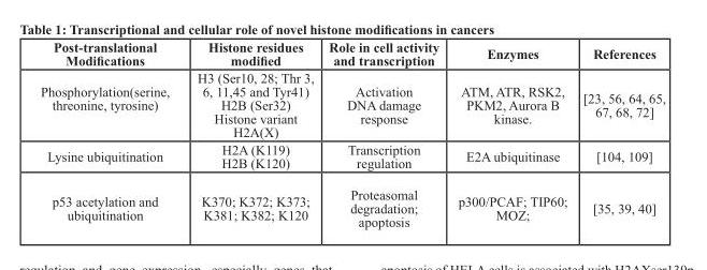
<table><thead><tr><td>Post-translational Modifications</td><td>Histone residues modified</td><td>Role in cell activity and transcription</td><td>Enzymes</td><td>References</td></tr></thead><tbody><tr><td>Phosphorylation(serine, threonine, tyrosine)</td><td>H3 (Ser10, 28; Thr 3, 6, 11,45 and Tyr41) H2B (Ser32) Histone variant H2A(X)</td><td>Activation DNA damage response</td><td>ATM, ATR, RSK2, PKM2, Aurora B kinase.</td><td>[23, 56, 64, 65, 67, 68, 72]</td></tr><tr><td>Lysine ubiquitination</td><td>H2A (K119) H2B (K120)</td><td>Transcription regulation</td><td>E2A ubiquitinase</td><td>[104, 109]</td></tr><tr><td>p53 acetylation and ubiquitination</td><td>K370; K372; K373; K381; K382; K120</td><td>Proteasomal degradation; apoptosis</td><td>p300/PCAF; TIP60; MOZ;</td><td>[35, 39, 40]</td></tr></tbody></table>